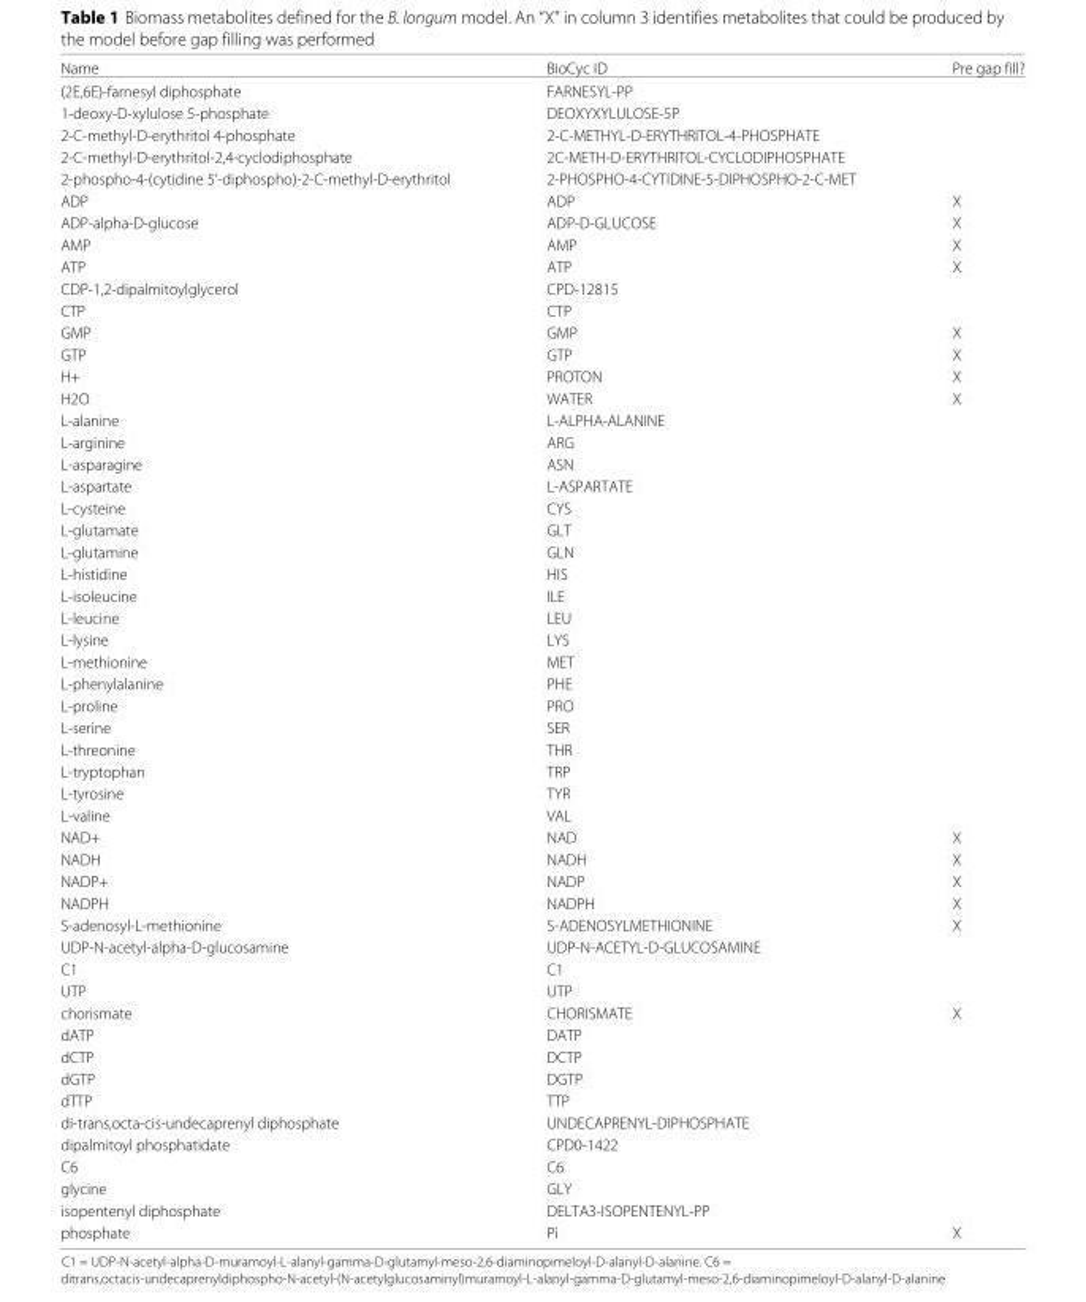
<table><thead><tr><td>Name</td><td>BioCyc ID</td><td>Pre gap fill?</td></tr></thead><tbody><tr><td>(2E,6E)-farnesyl diphosphate</td><td>FARNESYL-PP</td><td></td></tr><tr><td>1-deoxy-D-xylulose 5-phosphate</td><td>DEOXYXYLULOSE-5P</td><td></td></tr><tr><td>2-C-methyl-D-erythritol 4-phosphate</td><td>2-C-METHYL-D-ERYTHRITOL-4-PHOSPHATE</td><td></td></tr><tr><td>2-C-methyl-D-erythritol-2,4-cyclodiphosphate</td><td>2C-METH-D-ERYTHRITOL-CYCLODIPHOSPHATE</td><td></td></tr><tr><td>2-phospho-4-(cytidine 5’-diphospho)-2-C-methyl-D-erythritol</td><td>2-PHOSPHO-4-CYTIDINE-5-DIPHOSPHO-2-C-MET</td><td></td></tr><tr><td>ADP</td><td>ADP</td><td>X</td></tr><tr><td>ADP-alpha-D-glucose</td><td>ADP-D-GLUCOSE</td><td>X</td></tr><tr><td>AMP</td><td>AMP</td><td>X</td></tr><tr><td>ATP</td><td>ATP</td><td>X</td></tr><tr><td>CDP-1,2-dipalmitoylglycerol</td><td>CPD-12815</td><td></td></tr><tr><td>CTP</td><td>CTP</td><td></td></tr><tr><td>GMP</td><td>GMP</td><td>X</td></tr><tr><td>GTP</td><td>GTP</td><td>X</td></tr><tr><td>H+</td><td>PROTON</td><td>X</td></tr><tr><td>H2O</td><td>WATER</td><td>X</td></tr><tr><td>L-alanine</td><td>L-ALPHA-ALANINE</td><td></td></tr><tr><td>L-arginine</td><td>ARG</td><td></td></tr><tr><td>L-asparagine</td><td>ASN</td><td></td></tr><tr><td>L-aspartate</td><td>L-ASPARTATE</td><td></td></tr><tr><td>L-cysteine</td><td>CYS</td><td></td></tr><tr><td>L-glutamate</td><td>GLT</td><td></td></tr><tr><td>L-glutamine</td><td>GLN</td><td></td></tr><tr><td>L-histidine</td><td>HIS</td><td></td></tr><tr><td>L-isoleucine</td><td>ILE</td><td></td></tr><tr><td>L-leucine</td><td>LEU</td><td></td></tr><tr><td>L-lysine</td><td>LYS</td><td></td></tr><tr><td>L-methionine</td><td>MET</td><td></td></tr><tr><td>L-phenylalanine</td><td>PHE</td><td></td></tr><tr><td>L-proline</td><td>PRO</td><td></td></tr><tr><td>L-serine</td><td>SER</td><td></td></tr><tr><td>L-threonine</td><td>THR</td><td></td></tr><tr><td>L-tryptophan</td><td>TRP</td><td></td></tr><tr><td>L-tyrosine</td><td>TYR</td><td></td></tr><tr><td>L-valine</td><td>VAL</td><td></td></tr><tr><td>NAD+</td><td>NAD</td><td>X</td></tr><tr><td>NADH</td><td>NADH</td><td>X</td></tr><tr><td>NADP+</td><td>NADP</td><td>X</td></tr><tr><td>NADPH</td><td>NADPH</td><td>X</td></tr><tr><td>S-adenosyl-L-methionine</td><td>S-ADENOSYLMETHIONINE</td><td>X</td></tr><tr><td>UDP-N-acetyl-alpha-D-glucosamine</td><td>UDP-N-ACETYL-D-GLUCOSAMINE</td><td></td></tr><tr><td>C1</td><td>C1</td><td></td></tr><tr><td>UTP</td><td>UTP</td><td></td></tr><tr><td>chorismate</td><td>CHORISMATE</td><td>X</td></tr><tr><td>dATP</td><td>DATP</td><td></td></tr><tr><td>dCTP</td><td>DCTP</td><td></td></tr><tr><td>dGTP</td><td>DGTP</td><td></td></tr><tr><td>dTTP</td><td>TTP</td><td></td></tr><tr><td>di-trans,octa-cis-undecaprenyl diphosphate</td><td>UNDECAPRENYL-DIPHOSPHATE</td><td></td></tr><tr><td>dipalmitoyl phosphatidate</td><td>CPD0-1422</td><td></td></tr><tr><td>C6</td><td>C6</td><td></td></tr><tr><td>glycine</td><td>GLY</td><td></td></tr><tr><td>isopentenyl diphosphate</td><td>DELTA3-ISOPENTENYL-PP</td><td></td></tr><tr><td>phosphate</td><td>Pi</td><td>X</td></tr></tbody></table>